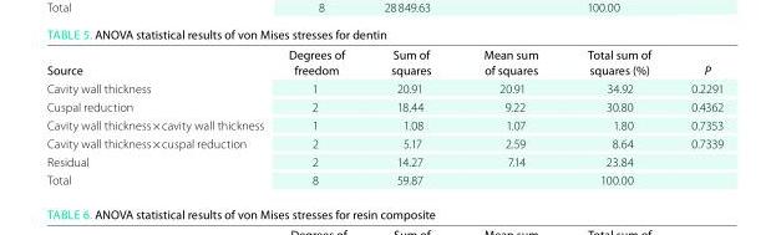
<table><thead><tr><td>source</td><td>Degrees of freedom</td><td>sum of squares</td><td>Mean sum of squares</td><td>total sum of squares (%)</td><td>P</td></tr></thead><tbody><tr><td>Cavity wall thickness</td><td>1</td><td>20.91</td><td>20.91</td><td>34.92</td><td>0.2291</td></tr><tr><td>Cuspal reduction</td><td>2</td><td>18.44</td><td>9.22</td><td>30.80</td><td>0.4362</td></tr><tr><td>Cavity wall thickness × cavity wall thickness</td><td>1</td><td>1.08</td><td>1.07</td><td>1.80</td><td>0.7353</td></tr><tr><td>Cavity wall thickness × cuspal reduction</td><td>2</td><td>5.17</td><td>2.59</td><td>8.64</td><td>0.7339</td></tr><tr><td>Residual</td><td>2</td><td>14.27</td><td>7.14</td><td>23.84</td><td></td></tr><tr><td>Total</td><td>8</td><td>59.87</td><td></td><td>100.00</td><td></td></tr></tbody></table>